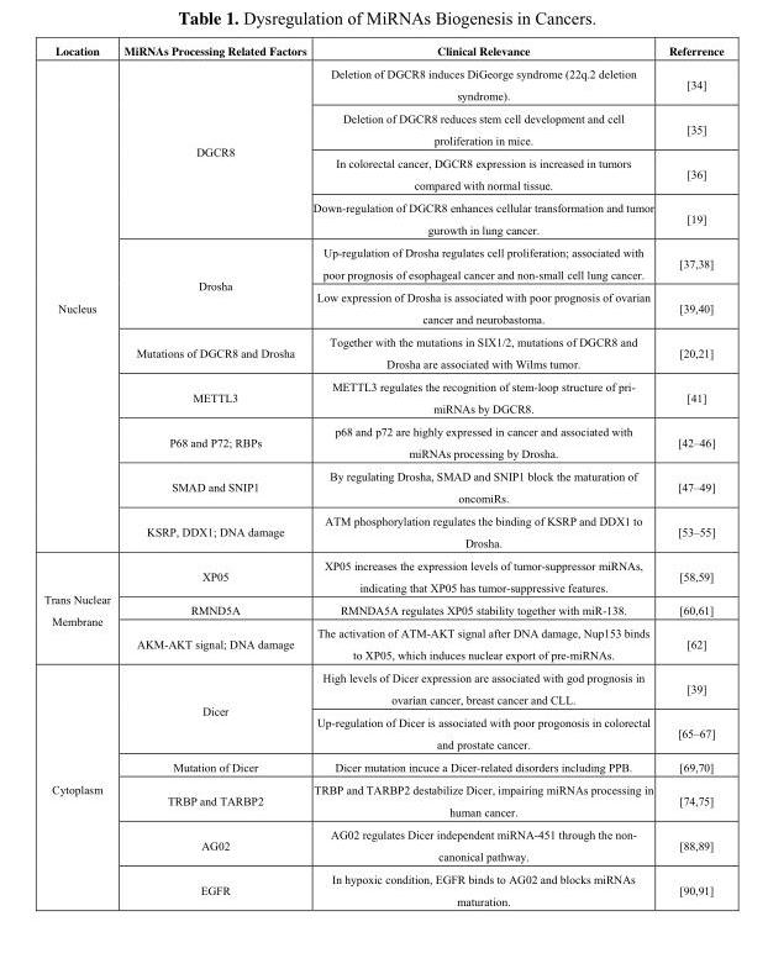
<table><thead><tr><td>Location</td><td>MiRNAs Processing Related Factors</td><td>Clinical Relevance</td><td>Referrence</td></tr></thead><tbody><tr><td rowspan="11">Nucleus</td><td rowspan="4">DGCR8</td><td>Deletion of DGCR8 induces DiGeorge syndrome (22q.2 deletion syndrome).</td><td>[34]</td></tr><tr><td>Deletion of DGCR8 reduces stem cell development and cell proliferation in mice.</td><td>[35]</td></tr><tr><td>In colorectal cancer, DGCR8 expression is increased in tumors compared with normal tissue.</td><td>[36]</td></tr><tr><td>Down-regulation of DGCR8 enhances cellular transformation and tumor gurowth in lung cancer.</td><td>[19]</td></tr><tr><td rowspan="2">Drosha</td><td>Up-regulation of Drosha regulates cell proliferation; associated with poor prognosis of esophageal cancer and non-small cell lung cancer.</td><td>[37,38]</td></tr><tr><td>Low expression of Drosha is associated with poor prognosis of ovarian cancer and neurobastoma.</td><td>[39,40]</td></tr><tr><td>Mutations of DGCR8 and Drosha</td><td>Together with the mutations in SIX1/2, mutations of DGCR8 and Drosha are associated with Wilms tumor.</td><td>[20,21]</td></tr><tr><td>METTL3</td><td>METTL3 regulates the recognition of stem-loop structure of pri- miRNAs by DGCR8.</td><td>[41]</td></tr><tr><td>P68 and P72; RBPs</td><td>p68 and p72 are highly expressed in cancer and associated with miRNAs processing by Drosha.</td><td>[42–46]</td></tr><tr><td>SMAD and SNIP1</td><td>By regulating Drosha, SMAD and SNIP1 block the maturation of oncomiRs.</td><td>[47–49]</td></tr><tr><td>KSRP, DDX1; DNA damage</td><td>ATM phosphorylation regulates the binding of KSRP and DDX1 to Drosha.</td><td>[53–55]</td></tr><tr><td rowspan="3">Trans Nuclear Membrane</td><td>XP05</td><td>XP05 increases the expression levels of tumor-suppressor miRNAs, indicating that XP05 has tumor-suppressive features.</td><td>[58,59]</td></tr><tr><td>RMND5A</td><td>RMNDA5A regulates XP05 stability together with miR-138.</td><td>[60,61]</td></tr><tr><td>AKM-AKT signal; DNA damage</td><td>The activation of ATM-AKT signal after DNA damage, Nup153 binds to XP05, which induces nuclear export of pre-miRNAs.</td><td>[62]</td></tr><tr><td rowspan="6">Cytoplasm</td><td rowspan="2">Dicer</td><td>High levels of Dicer expression are associated with god prognosis in ovarian cancer, breast cancer and CLL.</td><td>[39]</td></tr><tr><td>Up-regulation of Dicer is associated with poor progonosis in colorectal and prostate cancer.</td><td>[65–67]</td></tr><tr><td>Mutation of Dicer</td><td>Dicer mutation incuce a Dicer-related disorders including PPB.</td><td>[69,70]</td></tr><tr><td>TRBP and TARBP2</td><td>TRBP and TARBP2 destabilize Dicer, impairing miRNAs processing in human cancer.</td><td>[74,75]</td></tr><tr><td>AG02</td><td>AG02 regulates Dicer independent miRNA-451 through the non- canonical pathway.</td><td>[88,89]</td></tr><tr><td>EGFR</td><td>In hypoxic condition, EGFR binds to AG02 and blocks miRNAs maturation.</td><td>[90,91]</td></tr></tbody></table>